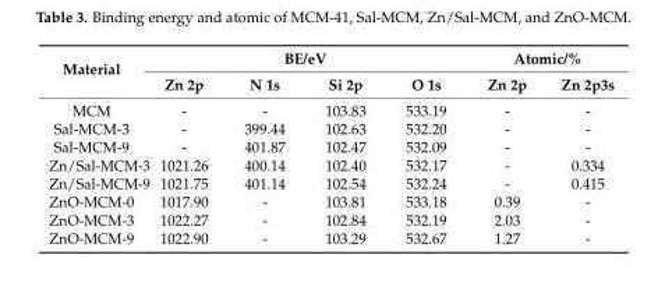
<table><thead><tr><td rowspan="2">Material</td><td colspan="4">BE/eV</td><td colspan="2">Atomic/%</td></tr><tr><td>Zn 2p</td><td>N 1s</td><td>Si 2p</td><td>O 1s</td><td>Zn 2p</td><td>Zn 2p3s</td></tr></thead><tbody><tr><td>MCM</td><td>-</td><td>-</td><td>103.83</td><td>533.19</td><td>-</td><td>-</td></tr><tr><td>Sal-MCM-3</td><td>-</td><td>399.44</td><td>102.63</td><td>532.20</td><td>-</td><td>-</td></tr><tr><td>Sal-MCM-9</td><td>-</td><td>401.87</td><td>102.47</td><td>532.09</td><td>-</td><td>-</td></tr><tr><td>Zn/Sal-MCM-3</td><td>1021.26</td><td>400.14</td><td>102.40</td><td>532.17</td><td>-</td><td>0.334</td></tr><tr><td>Zn/Sal-MCM-9</td><td>1021.75</td><td>401.14</td><td>102.54</td><td>532.24</td><td>-</td><td>0.415</td></tr><tr><td>ZnO-MCM-0</td><td>1017.90</td><td>-</td><td>103.81</td><td>533.18</td><td>0.39</td><td>-</td></tr><tr><td>ZnO-MCM-3</td><td>1022.27</td><td>-</td><td>102.84</td><td>532.19</td><td>2.03</td><td>-</td></tr><tr><td>ZnO-MCM-9</td><td>1022.90</td><td>-</td><td>103.29</td><td>532.67</td><td>1.27</td><td>-</td></tr></tbody></table>